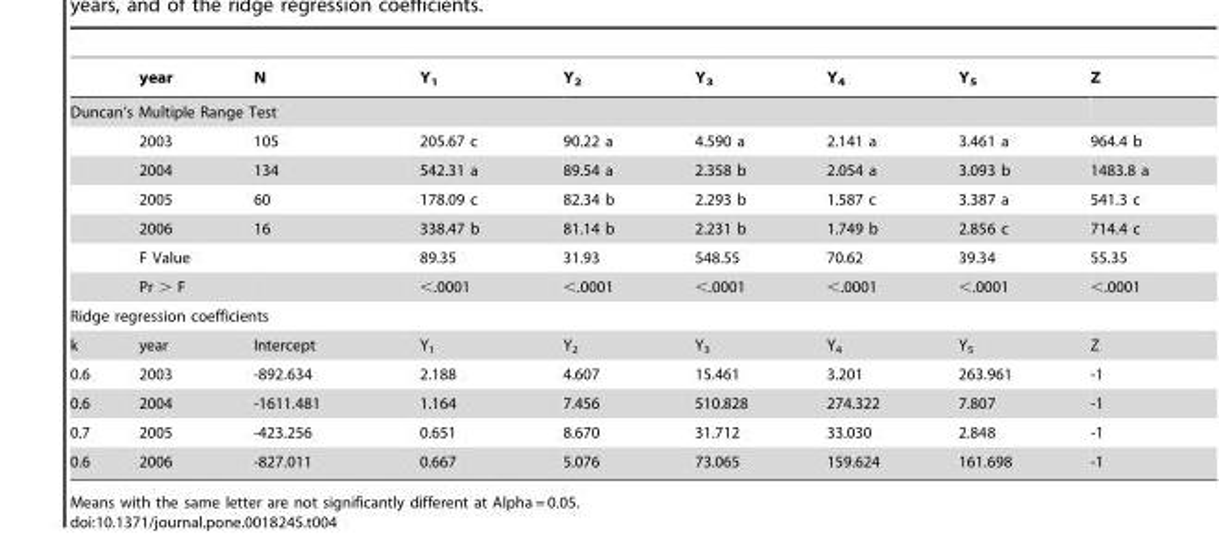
<table><thead><tr><td></td><td>year</td><td>N</td><td>Y<sub>1</sub></td><td>Y<sub>2</sub></td><td>Y<sub>3</sub></td><td>Y<sub>4</sub></td><td>Y<sub>5</sub></td><td>Z</td></tr></thead><tbody><tr><td colspan="9">Duncan’s Multiple Range Test</td></tr><tr><td></td><td>2003</td><td>105</td><td>205.67 c</td><td>90.22 a</td><td>4.590 a</td><td>2.141 a</td><td>3.461 a</td><td>964.4 b</td></tr><tr><td></td><td>2004</td><td>134</td><td>542.31 a</td><td>89.54 a</td><td>2.358 b</td><td>2.054 a</td><td>3.093 b</td><td>1483.8 a</td></tr><tr><td></td><td>2005</td><td>60</td><td>178.09 c</td><td>82.34 b</td><td>2.293 b</td><td>1.587 c</td><td>3.387 a</td><td>541.3 c</td></tr><tr><td></td><td>2006</td><td>16</td><td>338.47 b</td><td>81.14 b</td><td>2.231 b</td><td>1.749 b</td><td>2.856 c</td><td>714.4 c</td></tr><tr><td></td><td>F Value</td><td></td><td>89.35</td><td>31.93</td><td>548.55</td><td>70.62</td><td>39.34</td><td>55.35</td></tr><tr><td></td><td>Pr &gt; F</td><td></td><td>&lt;.0001</td><td>&lt;.0001</td><td>&lt;.0001</td><td>&lt;.0001</td><td>&lt;.0001</td><td>&lt;.0001</td></tr><tr><td colspan="9">Ridge regression coefficients</td></tr><tr><td>k</td><td>year</td><td>Intercept</td><td>Y<sub>1</sub></td><td>Y<sub>2</sub></td><td>Y<sub>3</sub></td><td>Y<sub>4</sub></td><td>Y<sub>5</sub></td><td>Z</td></tr><tr><td>0.6</td><td>2003</td><td>-892.634</td><td>2.188</td><td>4.607</td><td>15.461</td><td>3.201</td><td>263.961</td><td>-1</td></tr><tr><td>0.6</td><td>2004</td><td>-1611.481</td><td>1.164</td><td>7.456</td><td>510.828</td><td>274.322</td><td>7.807</td><td>-1</td></tr><tr><td>0.7</td><td>2005</td><td>-423.256</td><td>0.651</td><td>8.670</td><td>31.712</td><td>33.030</td><td>2.848</td><td>-1</td></tr><tr><td>0.6</td><td>2006</td><td>-827.011</td><td>0.667</td><td>5.076</td><td>73.065</td><td>159.624</td><td>161.698</td><td>-1</td></tr></tbody></table>